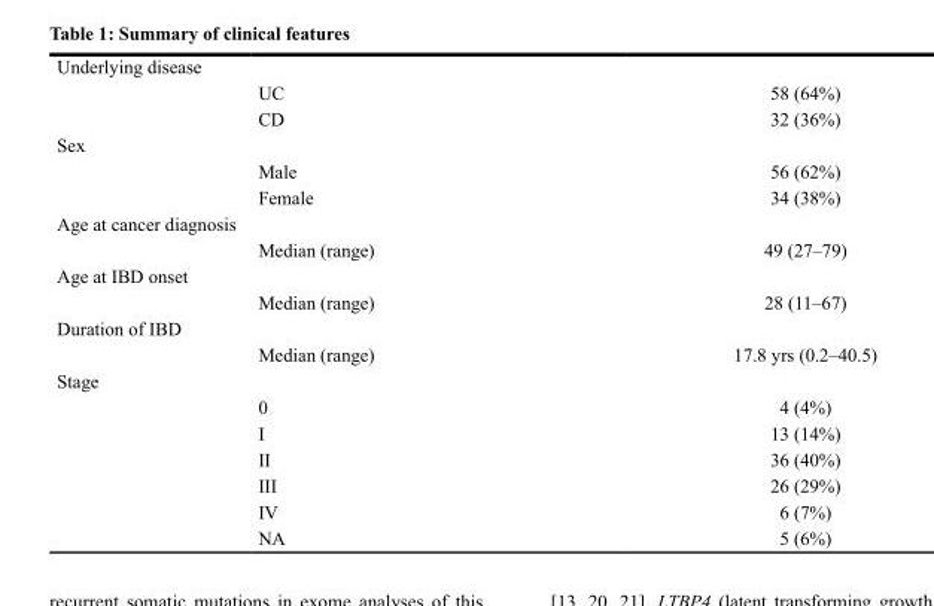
<table><tbody><tr><td colspan="3">Underlying disease</td></tr><tr><td></td><td>UC</td><td>58 (64%)</td></tr><tr><td></td><td>CD</td><td>32 (36%)</td></tr><tr><td colspan="3">Sex</td></tr><tr><td></td><td>Male</td><td>56 (62%)</td></tr><tr><td></td><td>Female</td><td>34 (38%)</td></tr><tr><td colspan="3">Age at cancer diagnosis</td></tr><tr><td></td><td>Median (range)</td><td>49 (27–79)</td></tr><tr><td colspan="3">Age at IBD onset</td></tr><tr><td></td><td>Median (range)</td><td>28 (11–67)</td></tr><tr><td colspan="3">Duration of IBD</td></tr><tr><td></td><td>Median (range)</td><td>17.8 yrs (0.2–40.5)</td></tr><tr><td colspan="3">Stage</td></tr><tr><td></td><td>0</td><td>4 (4%)</td></tr><tr><td></td><td>I</td><td>13 (14%)</td></tr><tr><td></td><td>II</td><td>36 (40%)</td></tr><tr><td></td><td>III</td><td>26 (29%)</td></tr><tr><td></td><td>IV</td><td>6 (7%)</td></tr><tr><td></td><td>NA</td><td>5 (6%)</td></tr></tbody></table>